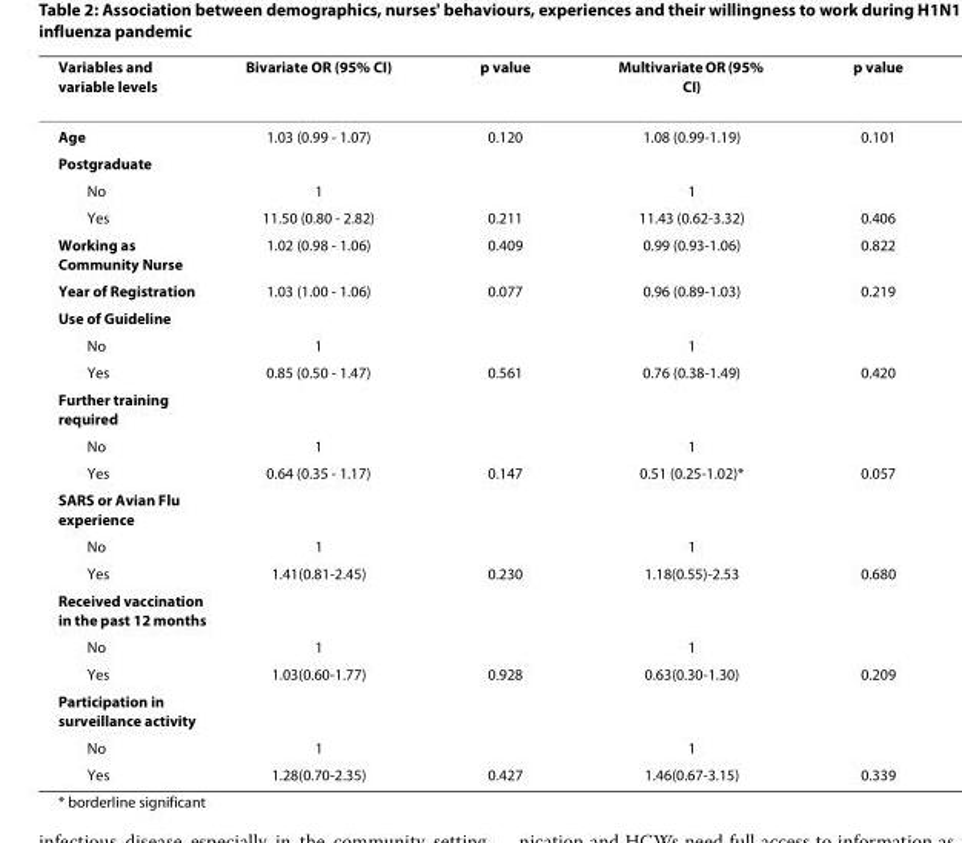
<table><thead><tr><td>Variables and variable levels</td><td>Bivariate OR (95% CI)</td><td>p value</td><td>Multivariate OR (95% CI)</td><td>p value</td></tr></thead><tbody><tr><td>Age</td><td>1.03 (0.99 - 1.07)</td><td>0.120</td><td>1.08 (0.99-1.19)</td><td>0.101</td></tr><tr><td colspan="5">Postgraduate</td></tr><tr><td>No</td><td>1</td><td></td><td>1</td><td></td></tr><tr><td>Yes</td><td>11.50 (0.80 - 2.82)</td><td>0.211</td><td>11.43 (0.62-3.32)</td><td>0.406</td></tr><tr><td>Working as Community Nurse</td><td>1.02 (0.98 - 1.06)</td><td>0.409</td><td>0.99 (0.93-1.06)</td><td>0.822</td></tr><tr><td>Year of Registration</td><td>1.03 (1.00 - 1.06)</td><td>0.077</td><td>0.96 (0.89-1.03)</td><td>0.219</td></tr><tr><td colspan="5">Use of Guideline</td></tr><tr><td>No</td><td>1</td><td></td><td>1</td><td></td></tr><tr><td>Yes</td><td>0.85 (0.50 - 1.47)</td><td>0.561</td><td>0.76 (0.38-1.49)</td><td>0.420</td></tr><tr><td colspan="5">Further training required</td></tr><tr><td>No</td><td>1</td><td></td><td>1</td><td></td></tr><tr><td>Yes</td><td>0.64 (0.35 - 1.17)</td><td>0.147</td><td>0.51 (0.25-1.02)*</td><td>0.057</td></tr><tr><td colspan="5">SARS or Avian Flu experience</td></tr><tr><td>No</td><td>1</td><td></td><td>1</td><td></td></tr><tr><td>Yes</td><td>1.41(0.81-2.45)</td><td>0.230</td><td>1.18(0.55)-2.53</td><td>0.680</td></tr><tr><td colspan="5">Received vaccination in the past 12 months</td></tr><tr><td>No</td><td>1</td><td></td><td>1</td><td></td></tr><tr><td>Yes</td><td>1.03(0.60-1.77)</td><td>0.928</td><td>0.63(0.30-1.30)</td><td>0.209</td></tr><tr><td colspan="5">Participation in surveillance activity</td></tr><tr><td>No</td><td>1</td><td></td><td>1</td><td></td></tr><tr><td>Yes</td><td>1.28(0.70-2.35)</td><td>0.427</td><td>1.46(0.67-3.15)</td><td>0.339</td></tr></tbody></table>